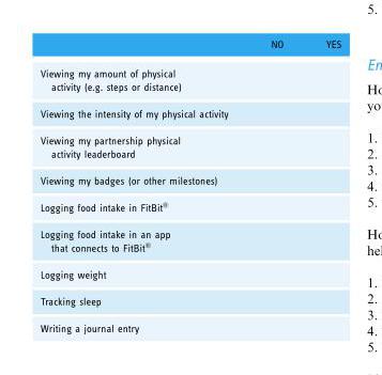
<table><thead><tr><td></td><td>NO</td><td>YES</td></tr></thead><tbody><tr><td colspan="3">Viewing my amount of physical activity (e.g. steps or distance)</td></tr><tr><td colspan="3">Viewing the intensity of my physical activity</td></tr><tr><td colspan="3">Viewing my partnership physical activity leaderboard</td></tr><tr><td colspan="3">Viewing my badges (or other milestones)</td></tr><tr><td colspan="3">Logging food intake in FitBit®</td></tr><tr><td colspan="3">Logging food intake in an app that connects to FitBit®</td></tr><tr><td colspan="3">Logging weight</td></tr><tr><td colspan="3">Tracking sleep</td></tr><tr><td>Writing a journal entry</td><td></td><td></td></tr></tbody></table>